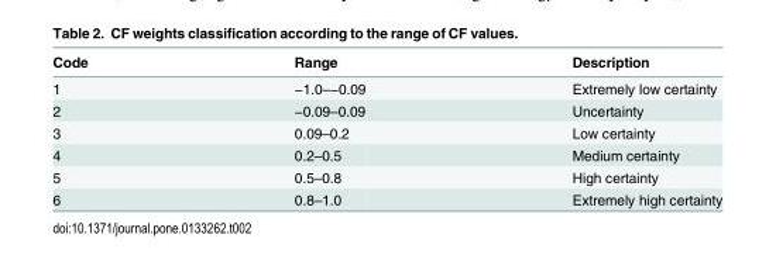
<table><thead><tr><td>Code</td><td>Range</td><td>Description</td></tr></thead><tbody><tr><td>1</td><td>−1.0–−0.09</td><td>Extremely low certainty</td></tr><tr><td>2</td><td>−0.09–0.09</td><td>Uncertainty</td></tr><tr><td>3</td><td>0.09–0.2</td><td>Low certainty</td></tr><tr><td>4</td><td>0.2–0.5</td><td>Medium certainty</td></tr><tr><td>5</td><td>0.5–0.8</td><td>High certainty</td></tr><tr><td>6</td><td>0.8–1.0</td><td>Extremely high certainty</td></tr></tbody></table>